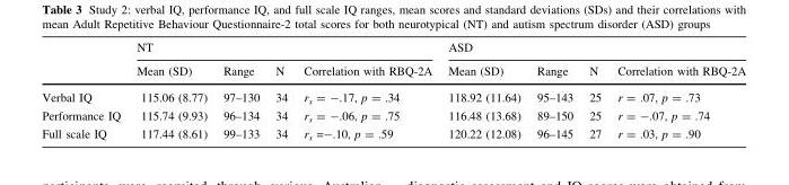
<table><thead><tr><td rowspan="2"></td><td colspan="4">NT</td><td colspan="4">ASD</td></tr><tr><td>Mean (SD)</td><td>Range</td><td>N</td><td>Correlation with RBQ-2A</td><td>Mean (SD)</td><td>Range</td><td>N</td><td>Correlation with RBQ-2A</td></tr></thead><tbody><tr><td>Verbal IQ</td><td>115.06 (8.77)</td><td>97–130</td><td>34</td><td>r<sub>s</sub> = -.17, p = .34</td><td>118.92 (11.64)</td><td>95–143</td><td>25</td><td>r = .07, p = .73</td></tr><tr><td>Performance IQ</td><td>115.74 (9.93)</td><td>96–134</td><td>34</td><td>r<sub>s</sub> = -.06, p = .75</td><td>116.48 (13.68)</td><td>89–150</td><td>25</td><td>r = -.07, p = .74</td></tr><tr><td>Full scale IQ</td><td>117.44 (8.61)</td><td>99–133</td><td>34</td><td>r<sub>s</sub> =-.10, p = .59</td><td>120.22 (12.08)</td><td>96–145</td><td>27</td><td>r = .03, p = .90</td></tr></tbody></table>